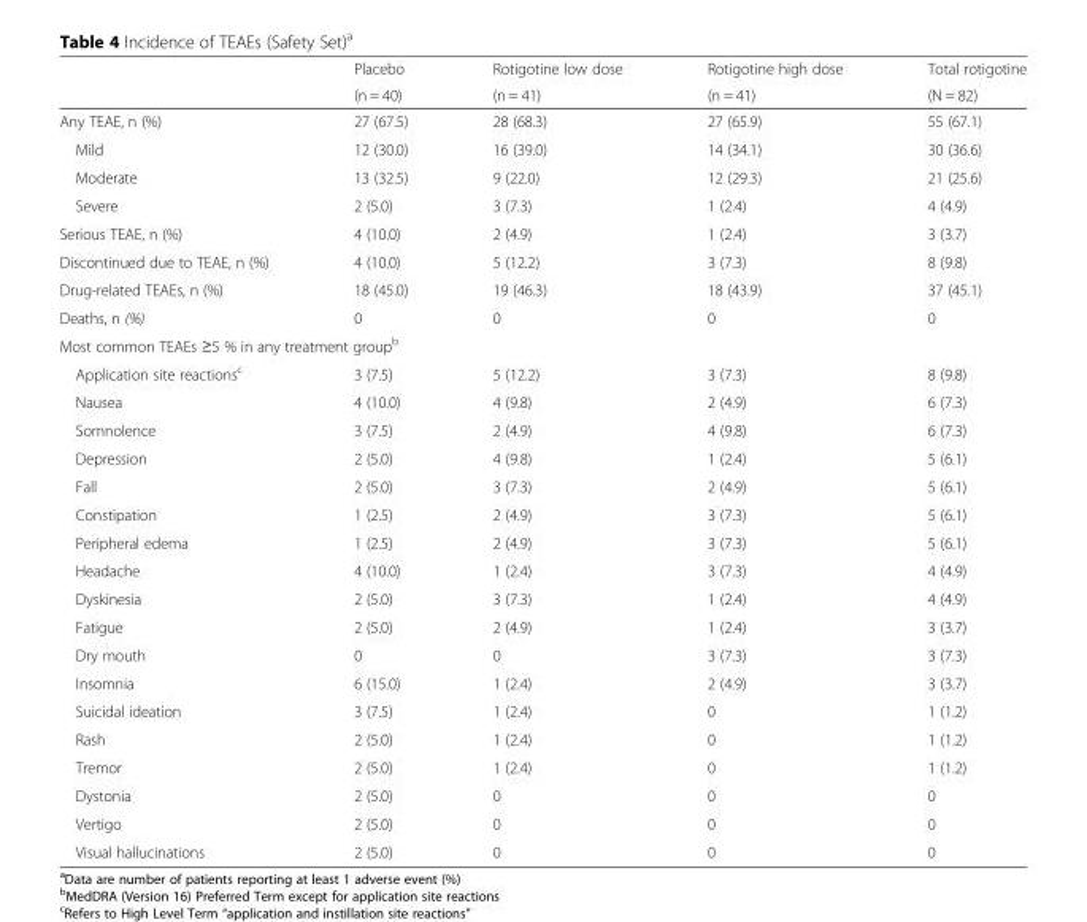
<table><thead><tr><td rowspan="2"></td><td rowspan="2">Placebo (n = 40)</td><td rowspan="2">Rotigotine low dose (n = 41)</td><td rowspan="2">Rotigotine high dose (n = 41)</td><td rowspan="2">Total rotigotine (N = 82)</td></tr><tr></tr></thead><tbody><tr><td>Any TEAE, n (%)</td><td>27 (67.5)</td><td>28 (68.3)</td><td>27 (65.9)</td><td>55 (67.1)</td></tr><tr><td>Mild</td><td>12 (30.0)</td><td>16 (39.0)</td><td>14 (34.1)</td><td>30 (36.6)</td></tr><tr><td>Moderate</td><td>13 (32.5)</td><td>9 (22.0)</td><td>12 (29.3)</td><td>21 (25.6)</td></tr><tr><td>Severe</td><td>2 (5.0)</td><td>3 (7.3)</td><td>1 (2.4)</td><td>4 (4.9)</td></tr><tr><td>Serious TEAE, n (%)</td><td>4 (10.0)</td><td>2 (4.9)</td><td>1 (2.4)</td><td>3 (3.7)</td></tr><tr><td>Discontinued due to TEAE, n (%)</td><td>4 (10.0)</td><td>5 (12.2)</td><td>3 (7.3)</td><td>8 (9.8)</td></tr><tr><td>Drug-related TEAEs, n (%)</td><td>18 (45.0)</td><td>19 (46.3)</td><td>18 (43.9)</td><td>37 (45.1)</td></tr><tr><td>Deaths, n (%)</td><td>0</td><td>0</td><td>0</td><td>0</td></tr><tr><td colspan="5">Most common TEAEs ≥5 % in any treatment group<sup>b</sup></td></tr><tr><td>Application site reactions<sup>c</sup></td><td>3 (7.5)</td><td>5 (12.2)</td><td>3 (7.3)</td><td>8 (9.8)</td></tr><tr><td>Nausea</td><td>4 (10.0)</td><td>4 (9.8)</td><td>2 (4.9)</td><td>6 (7.3)</td></tr><tr><td>Somnolence</td><td>3 (7.5)</td><td>2 (4.9)</td><td>4 (9.8)</td><td>6 (7.3)</td></tr><tr><td>Depression</td><td>2 (5.0)</td><td>4 (9.8)</td><td>1 (2.4)</td><td>5 (6.1)</td></tr><tr><td>Fall</td><td>2 (5.0)</td><td>3 (7.3)</td><td>2 (4.9)</td><td>5 (6.1)</td></tr><tr><td>Constipation</td><td>1 (2.5)</td><td>2 (4.9)</td><td>3 (7.3)</td><td>5 (6.1)</td></tr><tr><td>Peripheral edema</td><td>1 (2.5)</td><td>2 (4.9)</td><td>3 (7.3)</td><td>5 (6.1)</td></tr><tr><td>Headache</td><td>4 (10.0)</td><td>1 (2.4)</td><td>3 (7.3)</td><td>4 (4.9)</td></tr><tr><td>Dyskinesia</td><td>2 (5.0)</td><td>3 (7.3)</td><td>1 (2.4)</td><td>4 (4.9)</td></tr><tr><td>Fatigue</td><td>2 (5.0)</td><td>2 (4.9)</td><td>1 (2.4)</td><td>3 (3.7)</td></tr><tr><td>Dry mouth</td><td>0</td><td>0</td><td>3 (7.3)</td><td>3 (7.3)</td></tr><tr><td>Insomnia</td><td>6 (15.0)</td><td>1 (2.4)</td><td>2 (4.9)</td><td>3 (3.7)</td></tr><tr><td>Suicidal ideation</td><td>3 (7.5)</td><td>1 (2.4)</td><td>0</td><td>1 (1.2)</td></tr><tr><td>Rash</td><td>2 (5.0)</td><td>1 (2.4)</td><td>0</td><td>1 (1.2)</td></tr><tr><td>Tremor</td><td>2 (5.0)</td><td>1 (2.4)</td><td>0</td><td>1 (1.2)</td></tr><tr><td>Dystonia</td><td>2 (5.0)</td><td>0</td><td>0</td><td>0</td></tr><tr><td>Vertigo</td><td>2 (5.0)</td><td>0</td><td>0</td><td>0</td></tr><tr><td>Visual hallucinations</td><td>2 (5.0)</td><td>0</td><td>0</td><td>0</td></tr></tbody></table>